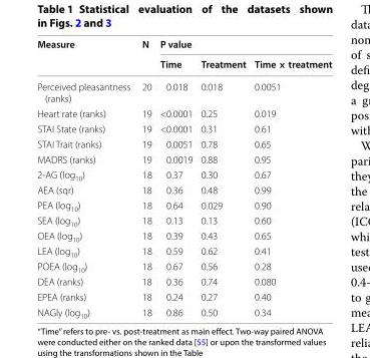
<table><thead><tr><td rowspan="2">Measure</td><td rowspan="2">N</td><td colspan="3">P value</td></tr><tr><td>Time</td><td>Treatment</td><td>Time × treatment</td></tr></thead><tbody><tr><td>Perceived pleasantness (ranks)</td><td>20</td><td>0.018</td><td>0.018</td><td>0.0051</td></tr><tr><td>Heart rate (ranks)</td><td>19</td><td>&lt;0.0001</td><td>0.25</td><td>0.019</td></tr><tr><td>STAI State (ranks)</td><td>19</td><td>&lt;0.0001</td><td>0.31</td><td>0.61</td></tr><tr><td>STAI Trait (ranks)</td><td>19</td><td>0.0051</td><td>0.78</td><td>0.65</td></tr><tr><td>MADRS (ranks)</td><td>19</td><td>0.0019</td><td>0.88</td><td>0.95</td></tr><tr><td>2‑AG (log<sub>10</sub>)</td><td>18</td><td>0.37</td><td>0.30</td><td>0.67</td></tr><tr><td>AEA (sqr)</td><td>18</td><td>0.36</td><td>0.48</td><td>0.99</td></tr><tr><td>PEA (log<sub>10</sub>)</td><td>18</td><td>0.64</td><td>0.029</td><td>0.90</td></tr><tr><td>SEA (log<sub>10</sub>)</td><td>18</td><td>0.13</td><td>0.13</td><td>0.60</td></tr><tr><td>OEA (log<sub>10</sub>)</td><td>18</td><td>0.39</td><td>0.43</td><td>0.65</td></tr><tr><td>LEA (log<sub>10</sub>)</td><td>18</td><td>0.59</td><td>0.62</td><td>0.41</td></tr><tr><td>POEA (log<sub>10</sub>)</td><td>18</td><td>0.67</td><td>0.56</td><td>0.28</td></tr><tr><td>DEA (ranks)</td><td>18</td><td>0.36</td><td>0.74</td><td>0.080</td></tr><tr><td>EPEA (ranks)</td><td>18</td><td>0.24</td><td>0.27</td><td>0.40</td></tr><tr><td>NAGly (log<sub>10</sub>)</td><td>18</td><td>0.86</td><td>0.50</td><td>0.34</td></tr></tbody></table>